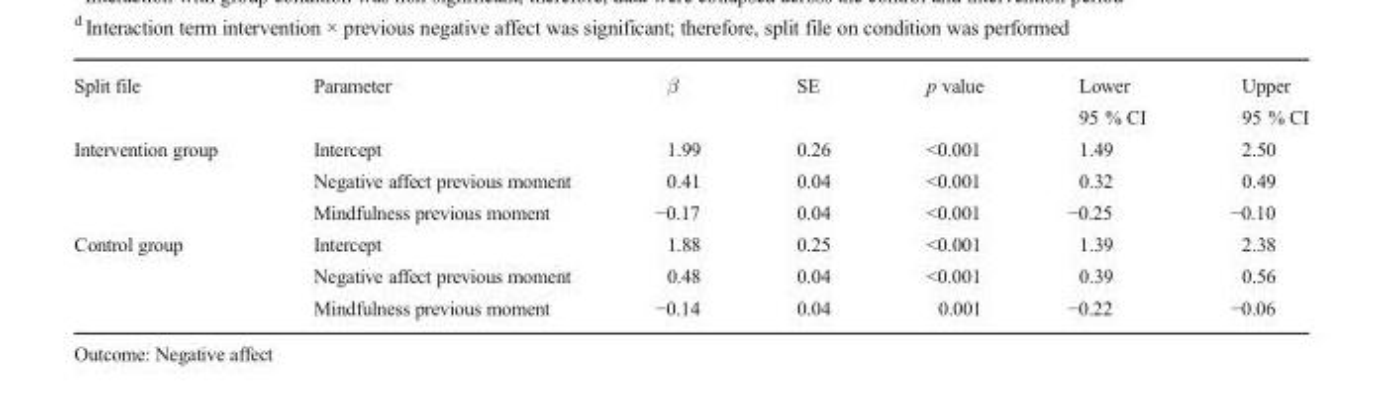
<table><tbody><tr><td rowspan="2">Split file</td><td>Parameter</td><td>β</td><td>SE</td><td>p value</td><td>Lower</td><td>Upper</td></tr><tr><td></td><td></td><td></td><td></td><td>95 % CI</td><td>95 % CI</td></tr><tr><td rowspan="3">Intervention group</td><td>Intercept</td><td>1.99</td><td>0.26</td><td>&lt;0.001</td><td>1.49</td><td>2.50</td></tr><tr><td>Negative affect previous moment</td><td>0.41</td><td>0.04</td><td>&lt;0.001</td><td>0.32</td><td>0.49</td></tr><tr><td>Mindfulness previous moment</td><td>−0.17</td><td>0.04</td><td>&lt;0.001</td><td>−0.25</td><td>−0.10</td></tr><tr><td rowspan="3">Control group</td><td>Intercept</td><td>1.88</td><td>0.25</td><td>&lt;0.001</td><td>1.39</td><td>2.38</td></tr><tr><td>Negative affect previous moment</td><td>0.48</td><td>0.04</td><td>&lt;0.001</td><td>0.39</td><td>0.56</td></tr><tr><td>Mindfulness previous moment</td><td>−0.14</td><td>0.04</td><td>0.001</td><td>−0.22</td><td>−0.06</td></tr></tbody></table>